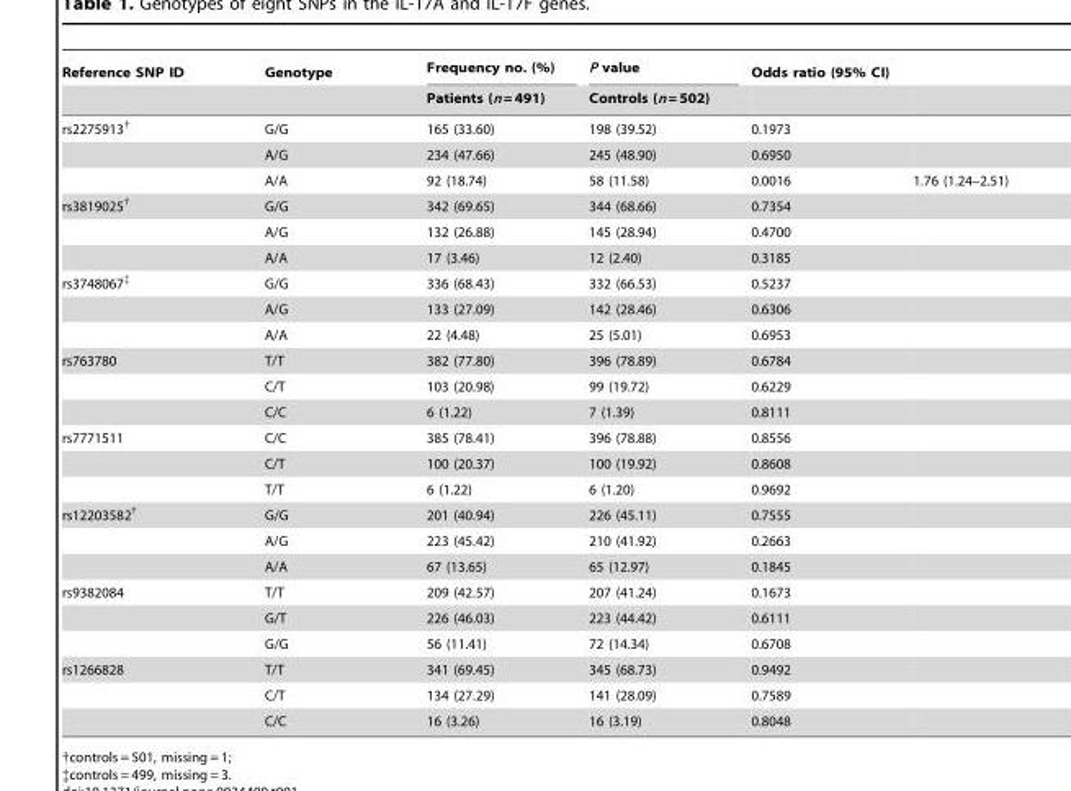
<table><thead><tr><td rowspan="2">Reference SNP ID</td><td rowspan="2">Genotype</td><td rowspan="2">Frequency no. (%) Patients (n = 491)</td><td rowspan="2">P value Controls (n = 502)</td><td rowspan="2">Odds ratio (95% CI)</td><td rowspan="2"></td></tr><tr></tr></thead><tbody><tr><td rowspan="3">rs2275913†</td><td>G/G</td><td>165 (33.60)</td><td>198 (39.52)</td><td>0.1973</td><td></td></tr><tr><td>A/G</td><td>234 (47.66)</td><td>245 (48.90)</td><td>0.6950</td><td></td></tr><tr><td>A/A</td><td>92 (18.74)</td><td>58 (11.58)</td><td>0.0016</td><td>1.76 (1.24–2.51)</td></tr><tr><td rowspan="3">rs3819025†</td><td>G/G</td><td>342 (69.65)</td><td>344 (68.66)</td><td>0.7354</td><td></td></tr><tr><td>A/G</td><td>132 (26.88)</td><td>145 (28.94)</td><td>0.4700</td><td></td></tr><tr><td>A/A</td><td>17 (3.46)</td><td>12 (2.40)</td><td>0.3185</td><td></td></tr><tr><td rowspan="3">rs3748067‡</td><td>G/G</td><td>336 (68.43)</td><td>332 (66.53)</td><td>0.5237</td><td></td></tr><tr><td>A/G</td><td>133 (27.09)</td><td>142 (28.46)</td><td>0.6306</td><td></td></tr><tr><td>A/A</td><td>22 (4.48)</td><td>25 (5.01)</td><td>0.6953</td><td></td></tr><tr><td rowspan="3">rs763780</td><td>T/T</td><td>382 (77.80)</td><td>396 (78.89)</td><td>0.6784</td><td></td></tr><tr><td>C/T</td><td>103 (20.98)</td><td>99 (19.72)</td><td>0.6229</td><td></td></tr><tr><td>C/C</td><td>6 (1.22)</td><td>7 (1.39)</td><td>0.8111</td><td></td></tr><tr><td rowspan="3">rs7771511</td><td>C/C</td><td>385 (78.41)</td><td>396 (78.88)</td><td>0.8556</td><td></td></tr><tr><td>C/T</td><td>100 (20.37)</td><td>100 (19.92)</td><td>0.8608</td><td></td></tr><tr><td>T/T</td><td>6 (1.22)</td><td>6 (1.20)</td><td>0.9692</td><td></td></tr><tr><td rowspan="3">rs12203582†</td><td>G/G</td><td>201 (40.94)</td><td>226 (45.11)</td><td>0.7555</td><td></td></tr><tr><td>A/G</td><td>223 (45.42)</td><td>210 (41.92)</td><td>0.2663</td><td></td></tr><tr><td>A/A</td><td>67 (13.65)</td><td>65 (12.97)</td><td>0.1845</td><td></td></tr><tr><td rowspan="3">rs9382084</td><td>T/T</td><td>209 (42.57)</td><td>207 (41.24)</td><td>0.1673</td><td></td></tr><tr><td>G/T</td><td>226 (46.03)</td><td>223 (44.42)</td><td>0.6111</td><td></td></tr><tr><td>G/G</td><td>56 (11.41)</td><td>72 (14.34)</td><td>0.6708</td><td></td></tr><tr><td rowspan="3">rs1266828</td><td>T/T</td><td>341 (69.45)</td><td>345 (68.73)</td><td>0.9492</td><td></td></tr><tr><td>C/T</td><td>134 (27.29)</td><td>141 (28.09)</td><td>0.7589</td><td></td></tr><tr><td>C/C</td><td>16 (3.26)</td><td>16 (3.19)</td><td>0.8048</td><td></td></tr></tbody></table>